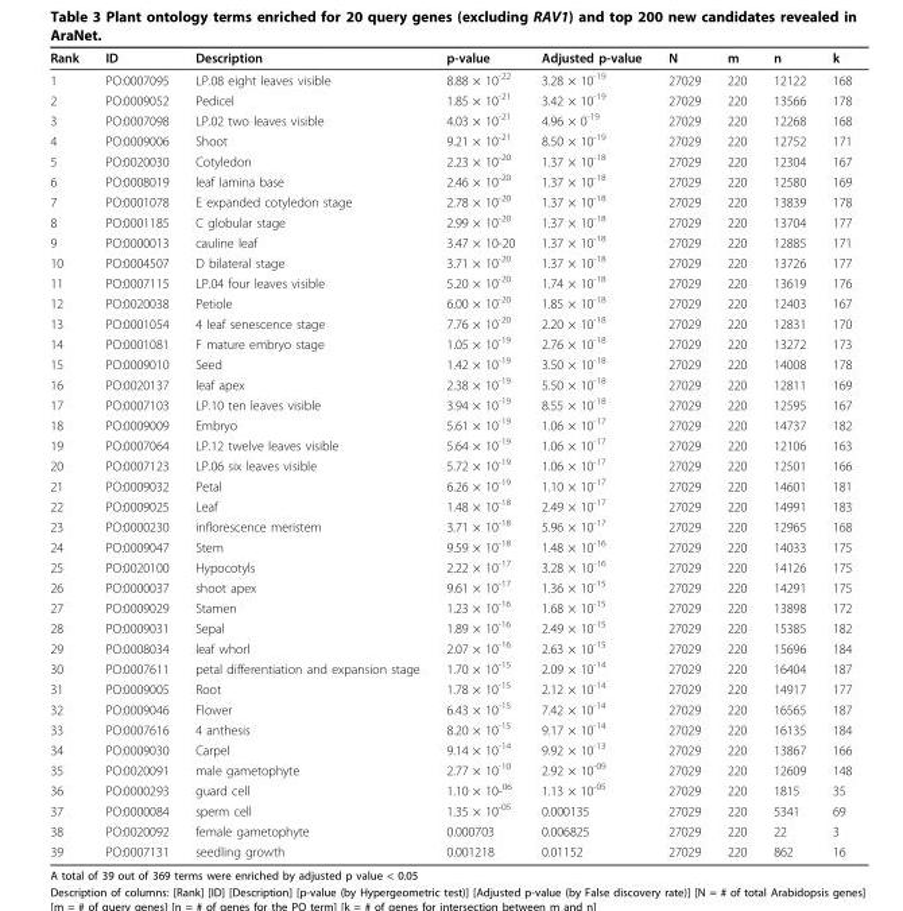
<table><thead><tr><td>Rank</td><td>ID</td><td>Description</td><td>p-value</td><td>Adjusted p-value</td><td>N</td><td>m</td><td>n</td><td>k</td></tr></thead><tbody><tr><td>1</td><td>PO:0007095</td><td>LP.08 eight leaves visible</td><td>8.88 × 10<sup>-22</sup></td><td>3.28 × 10<sup>-19</sup></td><td>27029</td><td>220</td><td>12122</td><td>168</td></tr><tr><td>2</td><td>PO:0009052</td><td>Pedicel</td><td>1.85 × 10<sup>-21</sup></td><td>3.42 × 10<sup>-19</sup></td><td>27029</td><td>220</td><td>13566</td><td>178</td></tr><tr><td>3</td><td>PO:0007098</td><td>LP.02 two leaves visible</td><td>4.03 × 10<sup>-21</sup></td><td>4.96 × 0<sup>-19</sup></td><td>27029</td><td>220</td><td>12268</td><td>168</td></tr><tr><td>4</td><td>PO:0009006</td><td>Shoot</td><td>9.21 × 10<sup>-21</sup></td><td>8.50 × 10<sup>-19</sup></td><td>27029</td><td>220</td><td>12752</td><td>171</td></tr><tr><td>5</td><td>PO:0020030</td><td>Cotyledon</td><td>2.23 × 10<sup>-20</sup></td><td>1.37 × 10<sup>-18</sup></td><td>27029</td><td>220</td><td>12304</td><td>167</td></tr><tr><td>6</td><td>PO:0008019</td><td>leaf lamina base</td><td>2.46 × 10<sup>-20</sup></td><td>1.37 × 10<sup>-18</sup></td><td>27029</td><td>220</td><td>12580</td><td>169</td></tr><tr><td>7</td><td>PO:0001078</td><td>E expanded cotyledon stage</td><td>2.78 × 10<sup>-20</sup></td><td>1.37 × 10<sup>-18</sup></td><td>27029</td><td>220</td><td>13839</td><td>178</td></tr><tr><td>8</td><td>PO:0001185</td><td>C globular stage</td><td>2.99 × 10<sup>-20</sup></td><td>1.37 × 10<sup>-18</sup></td><td>27029</td><td>220</td><td>13704</td><td>177</td></tr><tr><td>9</td><td>PO:0000013</td><td>cauline leaf</td><td>3.47 × 10-20</td><td>1.37 × 10<sup>-18</sup></td><td>27029</td><td>220</td><td>12885</td><td>171</td></tr><tr><td>10</td><td>PO:0004507</td><td>D bilateral stage</td><td>3.71 × 10<sup>-20</sup></td><td>1.37 × 10<sup>-18</sup></td><td>27029</td><td>220</td><td>13726</td><td>177</td></tr><tr><td>11</td><td>PO:0007115</td><td>LP.04 four leaves visible</td><td>5.20 × 10<sup>-20</sup></td><td>1.74 × 10<sup>-18</sup></td><td>27029</td><td>220</td><td>13619</td><td>176</td></tr><tr><td>12</td><td>PO:0020038</td><td>Petiole</td><td>6.00 × 10<sup>-20</sup></td><td>1.85 × 10<sup>-18</sup></td><td>27029</td><td>220</td><td>12403</td><td>167</td></tr><tr><td>13</td><td>PO:0001054</td><td>4 leaf senescence stage</td><td>7.76 × 10<sup>-20</sup></td><td>2.20 × 10<sup>-18</sup></td><td>27029</td><td>220</td><td>12831</td><td>170</td></tr><tr><td>14</td><td>PO:0001081</td><td>F mature embryo stage</td><td>1.05 × 10<sup>-19</sup></td><td>2.76 × 10<sup>-18</sup></td><td>27029</td><td>220</td><td>13272</td><td>173</td></tr><tr><td>15</td><td>PO:0009010</td><td>Seed</td><td>1.42 × 10<sup>-19</sup></td><td>3.50 × 10<sup>-18</sup></td><td>27029</td><td>220</td><td>14008</td><td>178</td></tr><tr><td>16</td><td>PO:0020137</td><td>leaf apex</td><td>2.38 × 10<sup>-19</sup></td><td>5.50 × 10<sup>-18</sup></td><td>27029</td><td>220</td><td>12811</td><td>169</td></tr><tr><td>17</td><td>PO:0007103</td><td>LP.10 ten leaves visible</td><td>3.94 × 10<sup>-19</sup></td><td>8.55 × 10<sup>-18</sup></td><td>27029</td><td>220</td><td>12595</td><td>167</td></tr><tr><td>18</td><td>PO:0009009</td><td>Embryo</td><td>5.61 × 10<sup>-19</sup></td><td>1.06 × 10<sup>-17</sup></td><td>27029</td><td>220</td><td>14737</td><td>182</td></tr><tr><td>19</td><td>PO:0007064</td><td>LP.12 twelve leaves visible</td><td>5.64 × 10<sup>-19</sup></td><td>1.06 × 10<sup>-17</sup></td><td>27029</td><td>220</td><td>12106</td><td>163</td></tr><tr><td>20</td><td>PO:0007123</td><td>LP.06 six leaves visible</td><td>5.72 × 10<sup>-19</sup></td><td>1.06 × 10<sup>-17</sup></td><td>27029</td><td>220</td><td>12501</td><td>166</td></tr><tr><td>21</td><td>PO:0009032</td><td>Petal</td><td>6.26 × 10<sup>-19</sup></td><td>1.10 × 10<sup>-17</sup></td><td>27029</td><td>220</td><td>14601</td><td>181</td></tr><tr><td>22</td><td>PO:0009025</td><td>Leaf</td><td>1.48 × 10<sup>-18</sup></td><td>2.49 × 10<sup>-17</sup></td><td>27029</td><td>220</td><td>14991</td><td>183</td></tr><tr><td>23</td><td>PO:0000230</td><td>inflorescence meristem</td><td>3.71 × 10<sup>-18</sup></td><td>5.96 × 10<sup>-17</sup></td><td>27029</td><td>220</td><td>12965</td><td>168</td></tr><tr><td>24</td><td>PO:0009047</td><td>Stem</td><td>9.59 × 10<sup>-18</sup></td><td>1.48 × 10<sup>-16</sup></td><td>27029</td><td>220</td><td>14033</td><td>175</td></tr><tr><td>25</td><td>PO:0020100</td><td>Hypocotyls</td><td>2.22 × 10<sup>-17</sup></td><td>3.28 × 10<sup>-16</sup></td><td>27029</td><td>220</td><td>14126</td><td>175</td></tr><tr><td>26</td><td>PO:0000037</td><td>shoot apex</td><td>9.61 × 10<sup>-17</sup></td><td>1.36 × 10<sup>-15</sup></td><td>27029</td><td>220</td><td>14291</td><td>175</td></tr><tr><td>27</td><td>PO:0009029</td><td>Stamen</td><td>1.23 × 10<sup>-16</sup></td><td>1.68 × 10<sup>-15</sup></td><td>27029</td><td>220</td><td>13898</td><td>172</td></tr><tr><td>28</td><td>PO:0009031</td><td>Sepal</td><td>1.89 × 10<sup>-16</sup></td><td>2.49 × 10<sup>-15</sup></td><td>27029</td><td>220</td><td>15385</td><td>182</td></tr><tr><td>29</td><td>PO:0008034</td><td>leaf whorl</td><td>2.07 × 10<sup>-16</sup></td><td>2.63 × 10<sup>-15</sup></td><td>27029</td><td>220</td><td>15696</td><td>184</td></tr><tr><td>30</td><td>PO:0007611</td><td>petal differentiation and expansion stage</td><td>1.70 × 10<sup>-15</sup></td><td>2.09 × 10<sup>-14</sup></td><td>27029</td><td>220</td><td>16404</td><td>187</td></tr><tr><td>31</td><td>PO:0009005</td><td>Root</td><td>1.78 × 10<sup>-15</sup></td><td>2.12 × 10<sup>-14</sup></td><td>27029</td><td>220</td><td>14917</td><td>177</td></tr><tr><td>32</td><td>PO:0009046</td><td>Flower</td><td>6.43 × 10<sup>-15</sup></td><td>7.42 × 10<sup>-14</sup></td><td>27029</td><td>220</td><td>16565</td><td>187</td></tr><tr><td>33</td><td>PO:0007616</td><td>4 anthesis</td><td>8.20 × 10<sup>-15</sup></td><td>9.17 × 10<sup>-14</sup></td><td>27029</td><td>220</td><td>16135</td><td>184</td></tr><tr><td>34</td><td>PO:0009030</td><td>Carpel</td><td>9.14 × 10<sup>-14</sup></td><td>9.92 × 10<sup>-13</sup></td><td>27029</td><td>220</td><td>13867</td><td>166</td></tr><tr><td>35</td><td>PO:0020091</td><td>male gametophyte</td><td>2.77 × 10<sup>-10</sup></td><td>2.92 × 10<sup>-09</sup></td><td>27029</td><td>220</td><td>12609</td><td>148</td></tr><tr><td>36</td><td>PO:0000293</td><td>guard cell</td><td>1.10 × 10-<sup>06</sup></td><td>1.13 × 10<sup>-05</sup></td><td>27029</td><td>220</td><td>1815</td><td>35</td></tr><tr><td>37</td><td>PO:0000084</td><td>sperm cell</td><td>1.35 × 10<sup>-05</sup></td><td>0.000135</td><td>27029</td><td>220</td><td>5341</td><td>69</td></tr><tr><td>38</td><td>PO:0020092</td><td>female gametophyte</td><td>0.000703</td><td>0.006825</td><td>27029</td><td>220</td><td>22</td><td>3</td></tr><tr><td>39</td><td>PO:0007131</td><td>seedling growth</td><td>0.001218</td><td>0.01152</td><td>27029</td><td>220</td><td>862</td><td>16</td></tr></tbody></table>